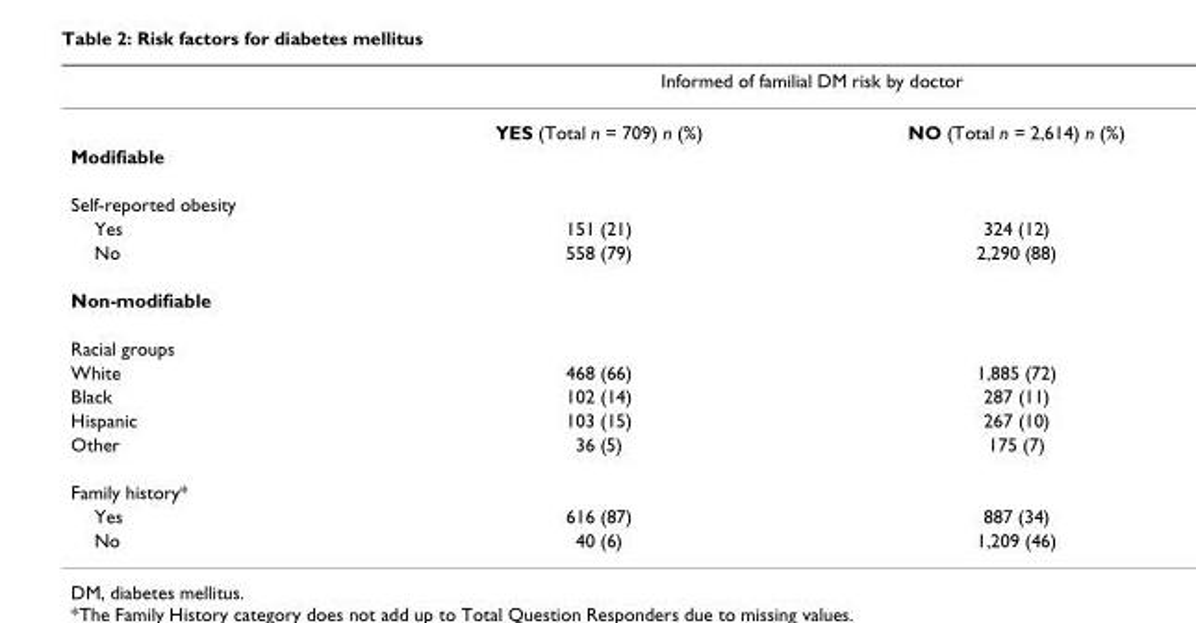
<table><thead><tr><td rowspan="2"></td><td colspan="2">Informed of familial DM risk by doctor</td></tr><tr><td>YES (Total n = 709) n (%)</td><td>NO (Total n = 2,614) n (%)</td></tr></thead><tbody><tr><td colspan="3">Modifiable</td></tr><tr><td colspan="3">Self-reported obesity</td></tr><tr><td>Yes</td><td>151 (21)</td><td>324 (12)</td></tr><tr><td>No</td><td>558 (79)</td><td>2,290 (88)</td></tr><tr><td colspan="3">Non-modifiable</td></tr><tr><td colspan="3">Racial groups</td></tr><tr><td>White</td><td>468 (66)</td><td>1,885 (72)</td></tr><tr><td>Black</td><td>102 (14)</td><td>287 (11)</td></tr><tr><td>Hispanic</td><td>103 (15)</td><td>267 (10)</td></tr><tr><td>Other</td><td>36 (5)</td><td>175 (7)</td></tr><tr><td colspan="3">Family history*</td></tr><tr><td>Yes</td><td>616 (87)</td><td>887 (34)</td></tr><tr><td>No</td><td>40 (6)</td><td>1,209 (46)</td></tr></tbody></table>